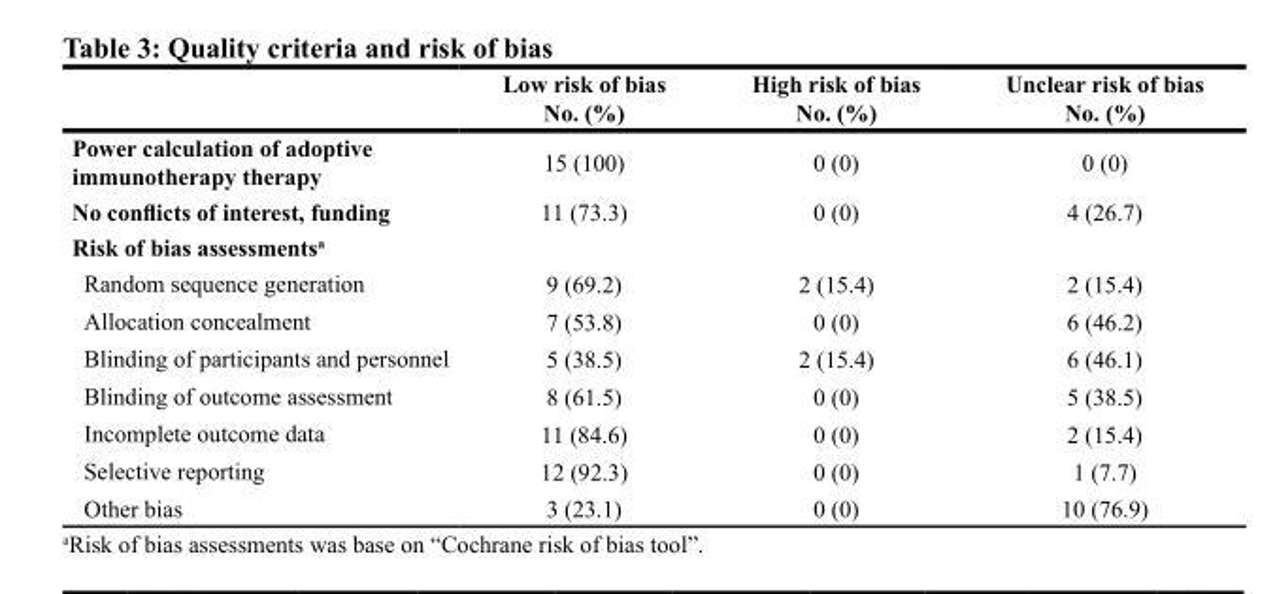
<table><thead><tr><td></td><td>Low risk of bias No. (%)</td><td>High risk of bias No. (%)</td><td>Unclear risk of bias No. (%)</td></tr></thead><tbody><tr><td>Power calculation of adoptive immunotherapy therapy</td><td>15 (100)</td><td>0 (0)</td><td>0 (0)</td></tr><tr><td>No conflicts of interest, funding</td><td>11 (73.3)</td><td>0 (0)</td><td>4 (26.7)</td></tr><tr><td colspan="4">Risk of bias assessments<sup>a</sup></td></tr><tr><td>Random sequence generation</td><td>9 (69.2)</td><td>2 (15.4)</td><td>2 (15.4)</td></tr><tr><td>Allocation concealment</td><td>7 (53.8)</td><td>0 (0)</td><td>6 (46.2)</td></tr><tr><td>Blinding of participants and personnel</td><td>5 (38.5)</td><td>2 (15.4)</td><td>6 (46.1)</td></tr><tr><td>Blinding of outcome assessment</td><td>8 (61.5)</td><td>0 (0)</td><td>5 (38.5)</td></tr><tr><td>Incomplete outcome data</td><td>11 (84.6)</td><td>0 (0)</td><td>2 (15.4)</td></tr><tr><td>Selective reporting</td><td>12 (92.3)</td><td>0 (0)</td><td>1 (7.7)</td></tr><tr><td>Other bias</td><td>3 (23.1)</td><td>0 (0)</td><td>10 (76.9)</td></tr></tbody></table>